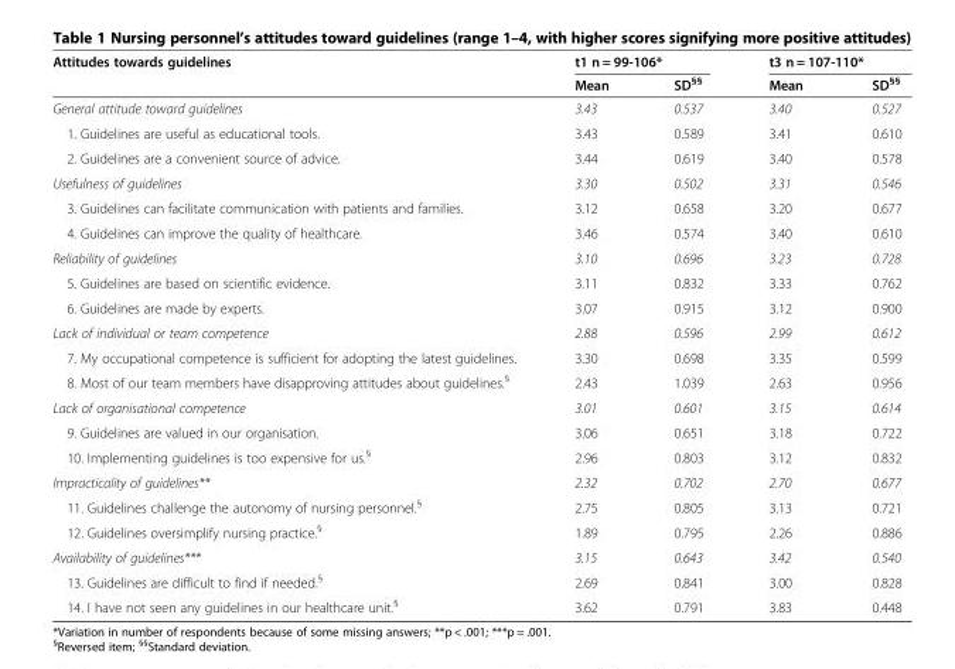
<table><thead><tr><td rowspan="2">Attitudes towards guidelines</td><td colspan="2">t1 n = 99-106*</td><td colspan="2">t3 n = 107-110*</td></tr><tr><td>Mean</td><td>SD<sup>§§</sup></td><td>Mean</td><td>SD<sup>§§</sup></td></tr></thead><tbody><tr><td>General attitude toward guidelines</td><td>3.43</td><td>0.537</td><td>3.40</td><td>0.527</td></tr><tr><td>1. Guidelines are useful as educational tools.</td><td>3.43</td><td>0.589</td><td>3.41</td><td>0.610</td></tr><tr><td>2. Guidelines are a convenient source of advice.</td><td>3.44</td><td>0.619</td><td>3.40</td><td>0.578</td></tr><tr><td>Usefulness of guidelines</td><td>3.30</td><td>0.502</td><td>3.31</td><td>0.546</td></tr><tr><td>3. Guidelines can facilitate communication with patients and families.</td><td>3.12</td><td>0.658</td><td>3.20</td><td>0.677</td></tr><tr><td>4. Guidelines can improve the quality of healthcare.</td><td>3.46</td><td>0.574</td><td>3.40</td><td>0.610</td></tr><tr><td>Reliability of guidelines</td><td>3.10</td><td>0.696</td><td>3.23</td><td>0.728</td></tr><tr><td>5. Guidelines are based on scientific evidence.</td><td>3.11</td><td>0.832</td><td>3.33</td><td>0.762</td></tr><tr><td>6. Guidelines are made by experts.</td><td>3.07</td><td>0.915</td><td>3.12</td><td>0.900</td></tr><tr><td>Lack of individual or team competence</td><td>2.88</td><td>0.596</td><td>2.99</td><td>0.612</td></tr><tr><td>7. My occupational competence is sufficient for adopting the latest guidelines.</td><td>3.30</td><td>0.698</td><td>3.35</td><td>0.599</td></tr><tr><td>8. Most of our team members have disapproving attitudes about guidelines.<sup>§</sup></td><td>2.43</td><td>1.039</td><td>2.63</td><td>0.956</td></tr><tr><td>Lack of organisational competence</td><td>3.01</td><td>0.601</td><td>3.15</td><td>0.614</td></tr><tr><td>9. Guidelines are valued in our organisation.</td><td>3.06</td><td>0.651</td><td>3.18</td><td>0.722</td></tr><tr><td>10. Implementing guidelines is too expensive for us.<sup>§</sup></td><td>2.96</td><td>0.803</td><td>3.12</td><td>0.832</td></tr><tr><td>Impracticality of guidelines**</td><td>2.32</td><td>0.702</td><td>2.70</td><td>0.677</td></tr><tr><td>11. Guidelines challenge the autonomy of nursing personnel.<sup>§</sup></td><td>2.75</td><td>0.805</td><td>3.13</td><td>0.721</td></tr><tr><td>12. Guidelines oversimplify nursing practice.<sup>§</sup></td><td>1.89</td><td>0.795</td><td>2.26</td><td>0.886</td></tr><tr><td>Availability of guidelines***</td><td>3.15</td><td>0.643</td><td>3.42</td><td>0.540</td></tr><tr><td>13. Guidelines are difficult to find if needed.<sup>§</sup></td><td>2.69</td><td>0.841</td><td>3.00</td><td>0.828</td></tr><tr><td>14. I have not seen any guidelines in our healthcare unit.<sup>§</sup></td><td>3.62</td><td>0.791</td><td>3.83</td><td>0.448</td></tr></tbody></table>